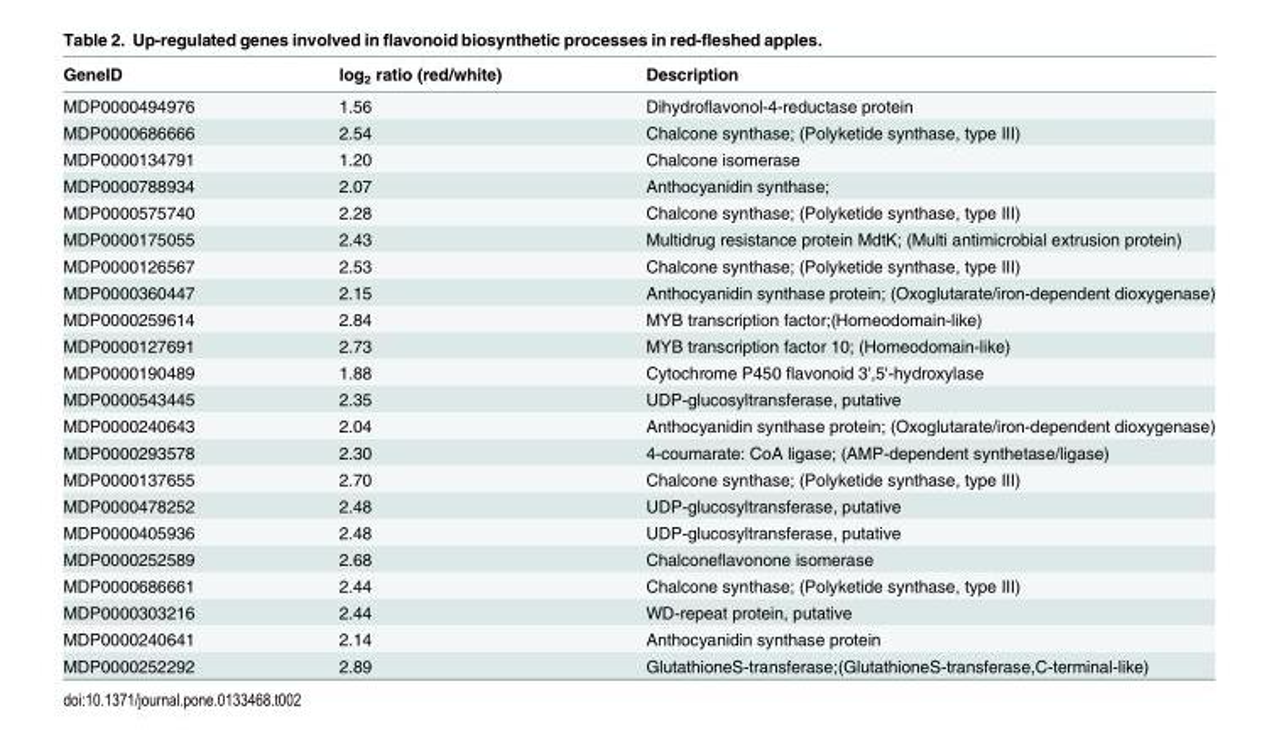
<table><thead><tr><td>GeneID</td><td>log<sub>2</sub> ratio (red/white)</td><td>Description</td></tr></thead><tbody><tr><td>MDP0000494976</td><td>1.56</td><td>Dihydroflavonol-4-reductase protein</td></tr><tr><td>MDP0000686666</td><td>2.54</td><td>Chalcone synthase; (Polyketide synthase, type III)</td></tr><tr><td>MDP0000134791</td><td>1.20</td><td>Chalcone isomerase</td></tr><tr><td>MDP0000788934</td><td>2.07</td><td>Anthocyanidin synthase;</td></tr><tr><td>MDP0000575740</td><td>2.28</td><td>Chalcone synthase; (Polyketide synthase, type III)</td></tr><tr><td>MDP0000175055</td><td>2.43</td><td>Multidrug resistance protein MdtK; (Multi antimicrobial extrusion protein)</td></tr><tr><td>MDP0000126567</td><td>2.53</td><td>Chalcone synthase; (Polyketide synthase, type III)</td></tr><tr><td>MDP0000360447</td><td>2.15</td><td>Anthocyanidin synthase protein; (Oxoglutarate/iron-dependent dioxygenase)</td></tr><tr><td>MDP0000259614</td><td>2.84</td><td>MYB transcription factor;(Homeodomain-like)</td></tr><tr><td>MDP0000127691</td><td>2.73</td><td>MYB transcription factor 10; (Homeodomain-like)</td></tr><tr><td>MDP0000190489</td><td>1.88</td><td>Cytochrome P450 flavonoid 3&#x27;,5&#x27;-hydroxylase</td></tr><tr><td>MDP0000543445</td><td>2.35</td><td>UDP-glucosyltransferase, putative</td></tr><tr><td>MDP0000240643</td><td>2.04</td><td>Anthocyanidin synthase protein; (Oxoglutarate/iron-dependent dioxygenase)</td></tr><tr><td>MDP0000293578</td><td>2.30</td><td>4-coumarate: CoA ligase; (AMP-dependent synthetase/ligase)</td></tr><tr><td>MDP0000137655</td><td>2.70</td><td>Chalcone synthase; (Polyketide synthase, type III)</td></tr><tr><td>MDP0000478252</td><td>2.48</td><td>UDP-glucosyltransferase, putative</td></tr><tr><td>MDP0000405936</td><td>2.48</td><td>UDP-glucosyltransferase, putative</td></tr><tr><td>MDP0000252589</td><td>2.68</td><td>Chalconeflavonone isomerase</td></tr><tr><td>MDP0000686661</td><td>2.44</td><td>Chalcone synthase; (Polyketide synthase, type III)</td></tr><tr><td>MDP0000303216</td><td>2.44</td><td>WD-repeat protein, putative</td></tr><tr><td>MDP0000240641</td><td>2.14</td><td>Anthocyanidin synthase protein</td></tr><tr><td>MDP0000252292</td><td>2.89</td><td>GlutathioneS-transferase;(GlutathioneS-transferase,C-terminal-like)</td></tr></tbody></table>